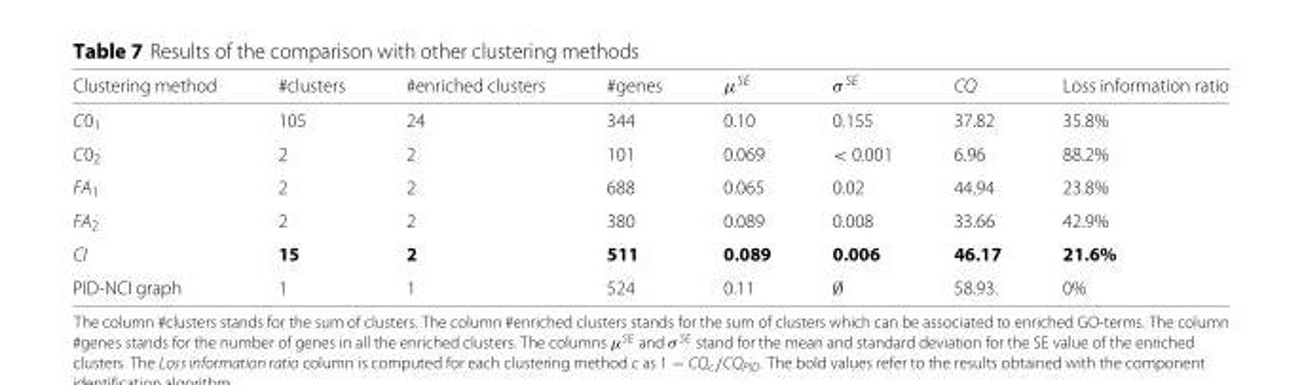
<table><thead><tr><td>Clustering method</td><td>#clusters</td><td>#enriched clusters</td><td>#genes</td><td>μ<sup>SE</sup></td><td>σ <sup>SE</sup></td><td>CQ</td><td>Loss information ratio</td></tr></thead><tbody><tr><td>C0<sub>1</sub></td><td>105</td><td>24</td><td>344</td><td>0.10</td><td>0.155</td><td>37.82</td><td>35.8%</td></tr><tr><td>C0<sub>2</sub></td><td>2</td><td>2</td><td>101</td><td>0.069</td><td>&lt; 0.001</td><td>6.96</td><td>88.2%</td></tr><tr><td>FA<sub>1</sub></td><td>2</td><td>2</td><td>688</td><td>0.065</td><td>0.02</td><td>44.94</td><td>23.8%</td></tr><tr><td>FA<sub>2</sub></td><td>2</td><td>2</td><td>380</td><td>0.089</td><td>0.008</td><td>33.66</td><td>42.9%</td></tr><tr><td>CI</td><td>15</td><td>2</td><td>511</td><td>0.089</td><td>0.006</td><td>46.17</td><td>21.6%</td></tr><tr><td>PID-NCI graph</td><td>1</td><td>1</td><td>524</td><td>0.11</td><td>∅</td><td>58.93.</td><td>0%</td></tr></tbody></table>